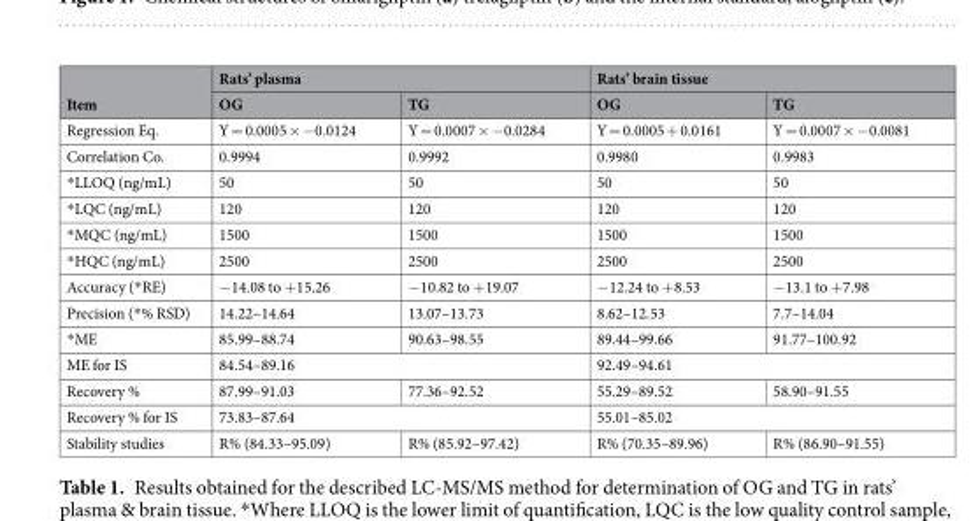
<table><thead><tr><td rowspan="2">Item</td><td colspan="2">Rats’ plasma</td><td colspan="2">Rats’ brain tissue</td></tr><tr><td>OG</td><td>TG</td><td>OG</td><td>TG</td></tr></thead><tbody><tr><td>Regression Eq.</td><td>Y = 0.0005 × −0.0124</td><td>Y = 0.0007 × −0.0284</td><td>Y = 0.0005 + 0.0161</td><td>Y = 0.0007 × −0.0081</td></tr><tr><td>Correlation Co.</td><td>0.9994</td><td>0.9992</td><td>0.9980</td><td>0.9983</td></tr><tr><td>*LLOQ (ng/mL)</td><td>50</td><td>50</td><td>50</td><td>50</td></tr><tr><td>*LQC (ng/mL)</td><td>120</td><td>120</td><td>120</td><td>120</td></tr><tr><td>*MQC (ng/mL)</td><td>1500</td><td>1500</td><td>1500</td><td>1500</td></tr><tr><td>*HQC (ng/mL)</td><td>2500</td><td>2500</td><td>2500</td><td>2500</td></tr><tr><td>Accuracy (*RE)</td><td>−14.08 to +15.26</td><td>−10.82 to +19.07</td><td>−12.24 to +8.53</td><td>−13.1 to +7.98</td></tr><tr><td>Precision (*% RSD)</td><td>14.22–14.64</td><td>13.07–13.73</td><td>8.62–12.53</td><td>7.7–14.04</td></tr><tr><td>*ME</td><td>85.99–88.74</td><td>90.63–98.55</td><td>89.44–99.66</td><td>91.77–100.92</td></tr><tr><td>ME for IS</td><td colspan="2">84.54–89.16</td><td colspan="2">92.49–94.61</td></tr><tr><td>Recovery %</td><td>87.99–91.03</td><td>77.36–92.52</td><td>55.29–89.52</td><td>58.90–91.55</td></tr><tr><td>Recovery % for IS</td><td colspan="2">73.83–87.64</td><td colspan="2">55.01–85.02</td></tr><tr><td>Stability studies</td><td>R% (84.33–95.09)</td><td>R% (85.92–97.42)</td><td>R% (70.35–89.96)</td><td>R% (86.90–91.55)</td></tr></tbody></table>